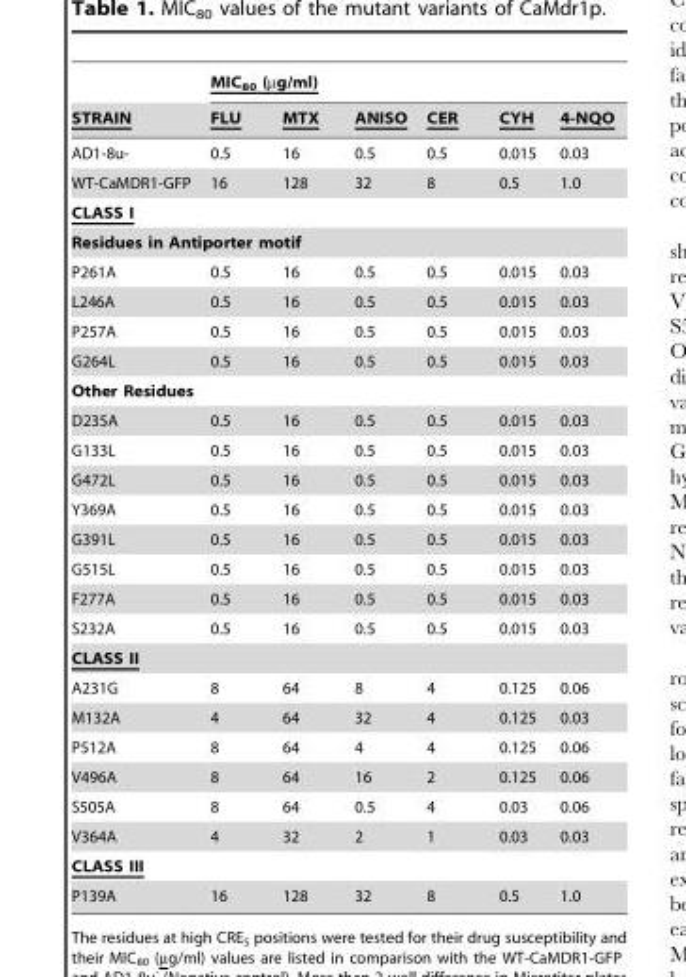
<table><thead><tr><td rowspan="2">STRAIN</td><td colspan="6">MIC<sub>80</sub> (µg/ml)</td></tr><tr><td>FLU</td><td>MTX</td><td>ANISO</td><td>CER</td><td>CYH</td><td>4-NQO</td></tr></thead><tbody><tr><td>AD1-8u-</td><td>0.5</td><td>16</td><td>0.5</td><td>0.5</td><td>0.015</td><td>0.03</td></tr><tr><td>WT-CaMDR1-GFP</td><td>16</td><td>128</td><td>32</td><td>8</td><td>0.5</td><td>1.0</td></tr><tr><td colspan="7">CLASS I</td></tr><tr><td colspan="7">Residues in Antiporter motif</td></tr><tr><td>P261A</td><td>0.5</td><td>16</td><td>0.5</td><td>0.5</td><td>0.015</td><td>0.03</td></tr><tr><td>L246A</td><td>0.5</td><td>16</td><td>0.5</td><td>0.5</td><td>0.015</td><td>0.03</td></tr><tr><td>P257A</td><td>0.5</td><td>16</td><td>0.5</td><td>0.5</td><td>0.015</td><td>0.03</td></tr><tr><td>G264L</td><td>0.5</td><td>16</td><td>0.5</td><td>0.5</td><td>0.015</td><td>0.03</td></tr><tr><td colspan="7">Other Residues</td></tr><tr><td>D235A</td><td>0.5</td><td>16</td><td>0.5</td><td>0.5</td><td>0.015</td><td>0.03</td></tr><tr><td>G133L</td><td>0.5</td><td>16</td><td>0.5</td><td>0.5</td><td>0.015</td><td>0.03</td></tr><tr><td>G472L</td><td>0.5</td><td>16</td><td>0.5</td><td>0.5</td><td>0.015</td><td>0.03</td></tr><tr><td>Y369A</td><td>0.5</td><td>16</td><td>0.5</td><td>0.5</td><td>0.015</td><td>0.03</td></tr><tr><td>G391L</td><td>0.5</td><td>16</td><td>0.5</td><td>0.5</td><td>0.015</td><td>0.03</td></tr><tr><td>G515L</td><td>0.5</td><td>16</td><td>0.5</td><td>0.5</td><td>0.015</td><td>0.03</td></tr><tr><td>F277A</td><td>0.5</td><td>16</td><td>0.5</td><td>0.5</td><td>0.015</td><td>0.03</td></tr><tr><td>S232A</td><td>0.5</td><td>16</td><td>0.5</td><td>0.5</td><td>0.015</td><td>0.03</td></tr><tr><td colspan="7">CLASS II</td></tr><tr><td>A231G</td><td>8</td><td>64</td><td>8</td><td>4</td><td>0.125</td><td>0.06</td></tr><tr><td>M132A</td><td>4</td><td>64</td><td>32</td><td>4</td><td>0.125</td><td>0.03</td></tr><tr><td>P512A</td><td>8</td><td>64</td><td>4</td><td>4</td><td>0.125</td><td>0.06</td></tr><tr><td>V496A</td><td>8</td><td>64</td><td>16</td><td>2</td><td>0.125</td><td>0.06</td></tr><tr><td>S505A</td><td>8</td><td>64</td><td>0.5</td><td>4</td><td>0.03</td><td>0.06</td></tr><tr><td>V364A</td><td>4</td><td>32</td><td>2</td><td>1</td><td>0.03</td><td>0.03</td></tr><tr><td colspan="7">CLASS III</td></tr><tr><td>P139A</td><td>16</td><td>128</td><td>32</td><td>8</td><td>0.5</td><td>1.0</td></tr></tbody></table>